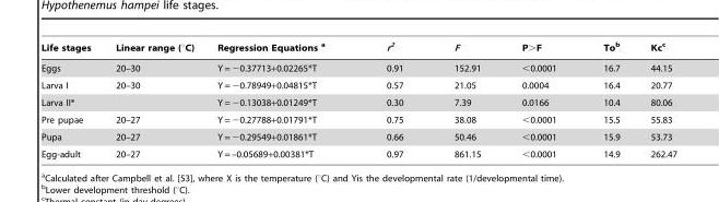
<table><thead><tr><td>Life stages</td><td>Linear range (°C)</td><td>Regression Equations a</td><td>r<sup>2</sup></td><td>F</td><td>P&gt;F</td><td>To<sup>b</sup></td><td>Kc<sup>c</sup></td></tr></thead><tbody><tr><td>Eggs</td><td>20–30</td><td>Y = −0.37713+0.02265*T</td><td>0.91</td><td>152.91</td><td>&lt;0.0001</td><td>16.7</td><td>44.15</td></tr><tr><td>Larva I</td><td>20–30</td><td>Y = −0.78949+0.04815*T</td><td>0.57</td><td>21.05</td><td>0.0004</td><td>16.4</td><td>20.77</td></tr><tr><td>Larva II*</td><td></td><td>Y = −0.13038+0.01249*T</td><td>0.30</td><td>7.39</td><td>0.0166</td><td>10.4</td><td>80.06</td></tr><tr><td>Pre pupae</td><td>20–27</td><td>Y = −0.27788+0.01791*T</td><td>0.75</td><td>38.08</td><td>&lt;0.0001</td><td>15.5</td><td>55.83</td></tr><tr><td>Pupa</td><td>20–27</td><td>Y = −0.29549+0.01861*T</td><td>0.66</td><td>50.46</td><td>&lt;0.0001</td><td>15.9</td><td>53.73</td></tr><tr><td>Egg-adult</td><td>20–27</td><td>Y = –0.05689+0.00381*T</td><td>0.97</td><td>861.15</td><td>&lt;0.0001</td><td>14.9</td><td>262.47</td></tr></tbody></table>